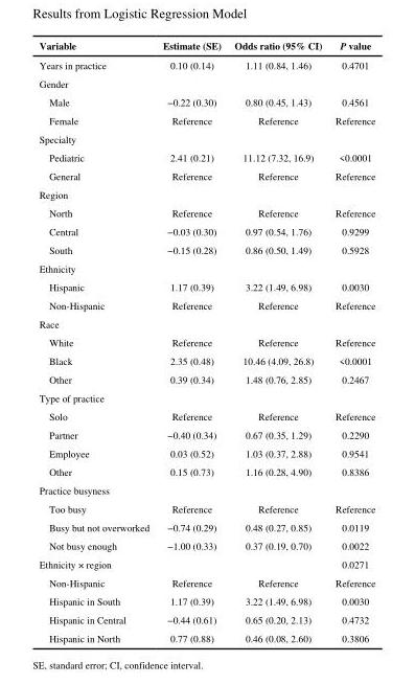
<table><thead><tr><td>Variable</td><td>Estimate (SE)</td><td>Odds ratio (95% CI)</td><td>P value</td></tr></thead><tbody><tr><td>Years in practice</td><td>0.10 (0.14)</td><td>1.11 (0.84, 1.46)</td><td>0.4701</td></tr><tr><td colspan="4">Gender</td></tr><tr><td>Male</td><td>−0.22 (0.30)</td><td>0.80 (0.45, 1.43)</td><td>0.4561</td></tr><tr><td>Female</td><td>Reference</td><td>Reference</td><td>Reference</td></tr><tr><td colspan="4">Specialty</td></tr><tr><td>Pediatric</td><td>2.41 (0.21)</td><td>11.12 (7.32, 16.9)</td><td>&lt;0.0001</td></tr><tr><td>General</td><td>Reference</td><td>Reference</td><td>Reference</td></tr><tr><td colspan="4">Region</td></tr><tr><td>North</td><td>Reference</td><td>Reference</td><td>Reference</td></tr><tr><td>Central</td><td>−0.03 (0.30)</td><td>0.97 (0.54, 1.76)</td><td>0.9299</td></tr><tr><td>South</td><td>−0.15 (0.28)</td><td>0.86 (0.50, 1.49)</td><td>0.5928</td></tr><tr><td colspan="4">Ethnicity</td></tr><tr><td>Hispanic</td><td>1.17 (0.39)</td><td>3.22 (1.49, 6.98)</td><td>0.0030</td></tr><tr><td>Non-Hispanic</td><td>Reference</td><td>Reference</td><td>Reference</td></tr><tr><td colspan="4">Race</td></tr><tr><td>White</td><td>Reference</td><td>Reference</td><td>Reference</td></tr><tr><td>Black</td><td>2.35 (0.48)</td><td>10.46 (4.09, 26.8)</td><td>&lt;0.0001</td></tr><tr><td>Other</td><td>0.39 (0.34)</td><td>1.48 (0.76, 2.85)</td><td>0.2467</td></tr><tr><td colspan="4">Type of practice</td></tr><tr><td>Solo</td><td>Reference</td><td>Reference</td><td>Reference</td></tr><tr><td>Partner</td><td>−0.40 (0.34)</td><td>0.67 (0.35, 1.29)</td><td>0.2290</td></tr><tr><td>Employee</td><td>0.03 (0.52)</td><td>1.03 (0.37, 2.88)</td><td>0.9541</td></tr><tr><td>Other</td><td>0.15 (0.73)</td><td>1.16 (0.28, 4.90)</td><td>0.8386</td></tr><tr><td colspan="4">Practice busyness</td></tr><tr><td>Too busy</td><td>Reference</td><td>Reference</td><td>Reference</td></tr><tr><td>Busy but not overworked</td><td>−0.74 (0.29)</td><td>0.48 (0.27, 0.85)</td><td>0.0119</td></tr><tr><td>Not busy enough</td><td>−1.00 (0.33)</td><td>0.37 (0.19, 0.70)</td><td>0.0022</td></tr><tr><td>Ethnicity × region</td><td></td><td></td><td>0.0271</td></tr><tr><td>Non-Hispanic</td><td>Reference</td><td>Reference</td><td>Reference</td></tr><tr><td>Hispanic in South</td><td>1.17 (0.39)</td><td>3.22 (1.49, 6.98)</td><td>0.0030</td></tr><tr><td>Hispanic in Central</td><td>−0.44 (0.61)</td><td>0.65 (0.20, 2.13)</td><td>0.4732</td></tr><tr><td>Hispanic in North</td><td>0.77 (0.88)</td><td>0.46 (0.08, 2.60)</td><td>0.3806</td></tr></tbody></table>